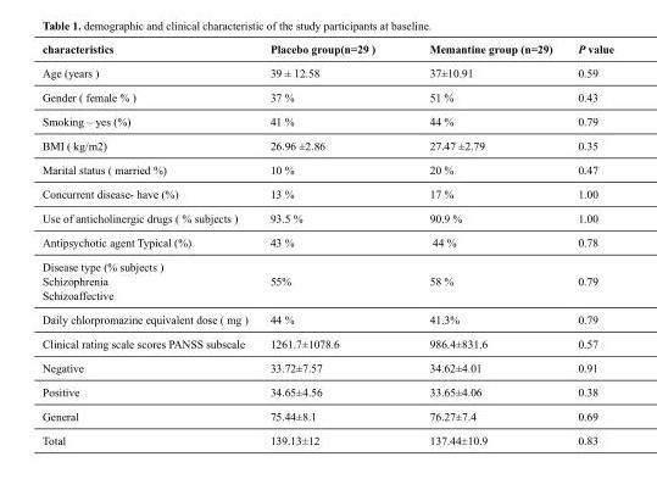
<table><thead><tr><td>characteristics</td><td>Placebo group(n=29 )</td><td>Memantine group (n=29)</td><td>P value</td></tr></thead><tbody><tr><td>Age (years )</td><td>39 ± 12.58</td><td>37±10.91</td><td>0.59</td></tr><tr><td>Gender ( female % )</td><td>37 %</td><td>51 %</td><td>0.43</td></tr><tr><td>Smoking – yes (%)</td><td>41 %</td><td>44 %</td><td>0.79</td></tr><tr><td>BMI ( kg/m2)</td><td>26.96 ±2.86</td><td>27.47 ±2.79</td><td>0.35</td></tr><tr><td>Marital status ( married %)</td><td>10 %</td><td>20 %</td><td>0.47</td></tr><tr><td>Concurrent disease- have (%)</td><td>13 %</td><td>17 %</td><td>1.00</td></tr><tr><td>Use of anticholinergic drugs ( % subjects )</td><td>93.5 %</td><td>90.9 %</td><td>1.00</td></tr><tr><td>Antipsychotic agent Typical (%)</td><td>43 %</td><td>44 %</td><td>0.78</td></tr><tr><td>Disease type (% subjects ) Schizophrenia Schizoaffective</td><td>55%</td><td>58 %</td><td>0.79</td></tr><tr><td>Daily chlorpromazine equivalent dose ( mg )</td><td>44 %</td><td>41.3%</td><td>0.79</td></tr><tr><td>Clinical rating scale scores PANSS subscale</td><td>1261.7±1078.6</td><td>986.4±831.6</td><td>0.57</td></tr><tr><td>Negative</td><td>33.72±7.57</td><td>34.62±4.01</td><td>0.91</td></tr><tr><td>Positive</td><td>34.65±4.56</td><td>33.65±4.06</td><td>0.38</td></tr><tr><td>General</td><td>75.44±8.1</td><td>76.27±7.4</td><td>0.69</td></tr><tr><td>Total</td><td>139.13±12</td><td>137.44±10.9</td><td>0.83</td></tr></tbody></table>